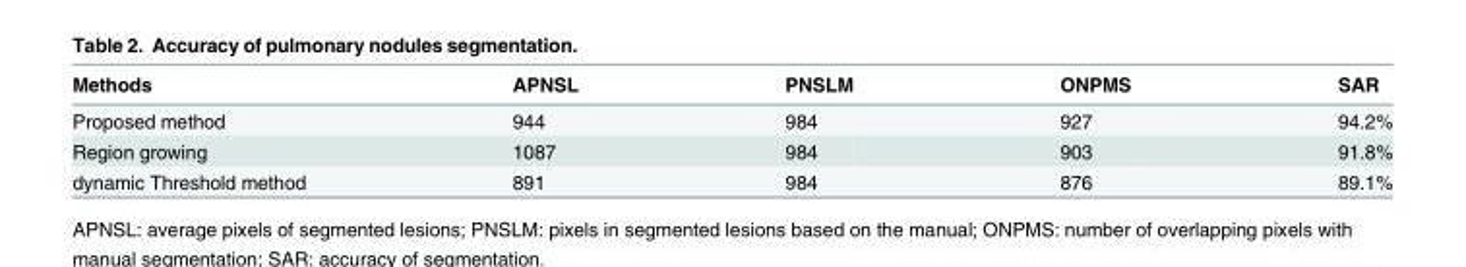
<table><thead><tr><td>Methods</td><td>APNSL</td><td>PNSLM</td><td>ONPMS</td><td>SAR</td></tr></thead><tbody><tr><td>Proposed method</td><td>944</td><td>984</td><td>927</td><td>94.2%</td></tr><tr><td>Region growing</td><td>1087</td><td>984</td><td>903</td><td>91.8%</td></tr><tr><td>dynamic Threshold method</td><td>891</td><td>984</td><td>876</td><td>89.1%</td></tr></tbody></table>